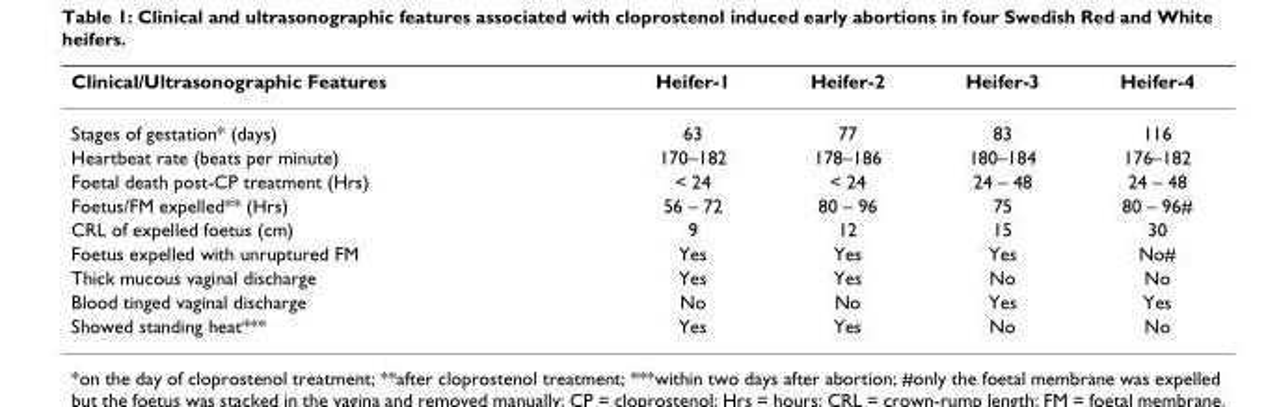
<table><thead><tr><td>Clinical/Ultrasonographic Features</td><td>Heifer-1</td><td>Heifer-2</td><td>Heifer-3</td><td>Heifer-4</td></tr></thead><tbody><tr><td>Stages of gestation* (days)</td><td>63</td><td>77</td><td>83</td><td>116</td></tr><tr><td>Heartbeat rate (beats per minute)</td><td>170–182</td><td>178–186</td><td>180–184</td><td>176–182</td></tr><tr><td>Foetal death post-CP treatment (Hrs)</td><td>&lt; 24</td><td>&lt; 24</td><td>24 – 48</td><td>24 – 48</td></tr><tr><td>Foetus/FM expelled** (Hrs)</td><td>56 – 72</td><td>80 – 96</td><td>75</td><td>80 – 96#</td></tr><tr><td>CRL of expelled foetus (cm)</td><td>9</td><td>12</td><td>15</td><td>30</td></tr><tr><td>Foetus expelled with unruptured FM</td><td>Yes</td><td>Yes</td><td>Yes</td><td>No#</td></tr><tr><td>Thick mucous vaginal discharge</td><td>Yes</td><td>Yes</td><td>No</td><td>No</td></tr><tr><td>Blood tinged vaginal discharge</td><td>No</td><td>No</td><td>Yes</td><td>Yes</td></tr><tr><td>Showed standing heat***</td><td>Yes</td><td>Yes</td><td>No</td><td>No</td></tr></tbody></table>